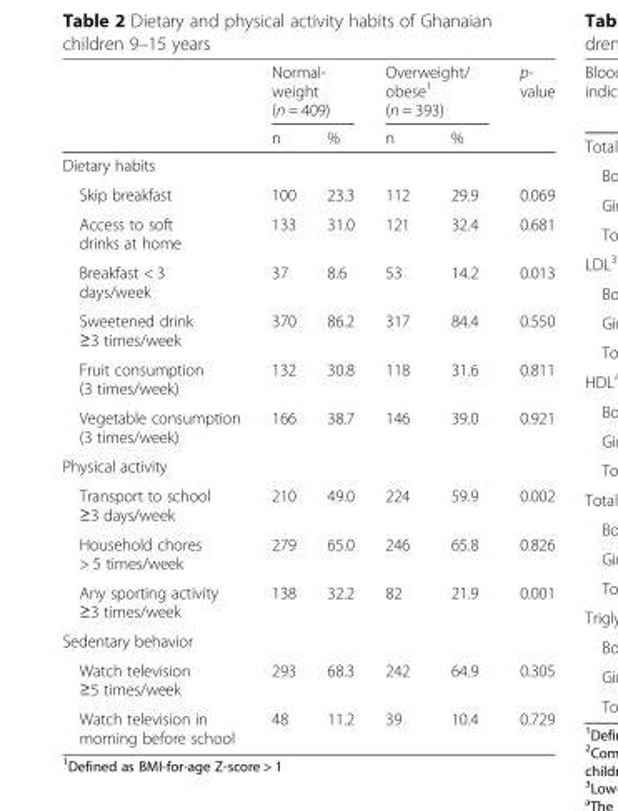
<table><thead><tr><td rowspan="2"></td><td colspan="2">Normal- weight (n = 409)</td><td colspan="2">Overweight/ obese<sup>1</sup> (n = 393)</td><td rowspan="2">p- value</td></tr><tr><td>n</td><td>%</td><td>n</td><td>%</td></tr></thead><tbody><tr><td colspan="6">Dietary habits</td></tr><tr><td>Skip breakfast</td><td>100</td><td>23.3</td><td>112</td><td>29.9</td><td>0.069</td></tr><tr><td>Access to soft drinks at home</td><td>133</td><td>31.0</td><td>121</td><td>32.4</td><td>0.681</td></tr><tr><td>Breakfast &lt; 3 days/week</td><td>37</td><td>8.6</td><td>53</td><td>14.2</td><td>0.013</td></tr><tr><td>Sweetened drink ≥3 times/week</td><td>370</td><td>86.2</td><td>317</td><td>84.4</td><td>0.550</td></tr><tr><td>Fruit consumption (3 times/week)</td><td>132</td><td>30.8</td><td>118</td><td>31.6</td><td>0.811</td></tr><tr><td>Vegetable consumption (3 times/week)</td><td>166</td><td>38.7</td><td>146</td><td>39.0</td><td>0.921</td></tr><tr><td colspan="6">Physical activity</td></tr><tr><td>Transport to school ≥3 days/week</td><td>210</td><td>49.0</td><td>224</td><td>59.9</td><td>0.002</td></tr><tr><td>Household chores &gt; 5 times/week</td><td>279</td><td>65.0</td><td>246</td><td>65.8</td><td>0.826</td></tr><tr><td>Any sporting activity ≥3 times/week</td><td>138</td><td>32.2</td><td>82</td><td>21.9</td><td>0.001</td></tr><tr><td colspan="6">Sedentary behavior</td></tr><tr><td>Watch television ≥5 times/week</td><td>293</td><td>68.3</td><td>242</td><td>64.9</td><td>0.305</td></tr><tr><td>Watch television in morning before school</td><td>48</td><td>11.2</td><td>39</td><td>10.4</td><td>0.729</td></tr></tbody></table>